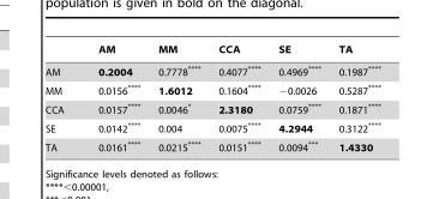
<table><thead><tr><td></td><td>AM</td><td>MM</td><td>CCA</td><td>SE</td><td>TA</td></tr></thead><tbody><tr><td>AM</td><td>0.2004</td><td>0.7778****</td><td>0.4077****</td><td>0.4969****</td><td>0.1987****</td></tr><tr><td>MM</td><td>0.0156****</td><td>1.6012</td><td>0.1604****</td><td>−0.0026</td><td>0.5287****</td></tr><tr><td>CCA</td><td>0.0157****</td><td>0.0046*</td><td>2.3180</td><td>0.0759****</td><td>0.1871****</td></tr><tr><td>SE</td><td>0.0142****</td><td>0.004</td><td>0.0075****</td><td>4.2944</td><td>0.3122****</td></tr><tr><td>TA</td><td>0.0161****</td><td>0.0215****</td><td>0.0151****</td><td>0.0094***</td><td>1.4330</td></tr></tbody></table>